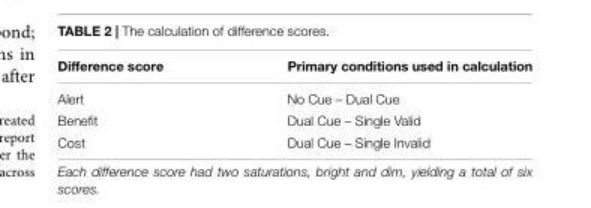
<table><thead><tr><td>Difference score</td><td>Primary conditions used in calculation</td></tr></thead><tbody><tr><td>Alert</td><td>No Cue – Dual Cue</td></tr><tr><td>Benefit</td><td>Dual Cue – Single Valid</td></tr><tr><td>Cost</td><td>Dual Cue – Single Invalid</td></tr></tbody></table>